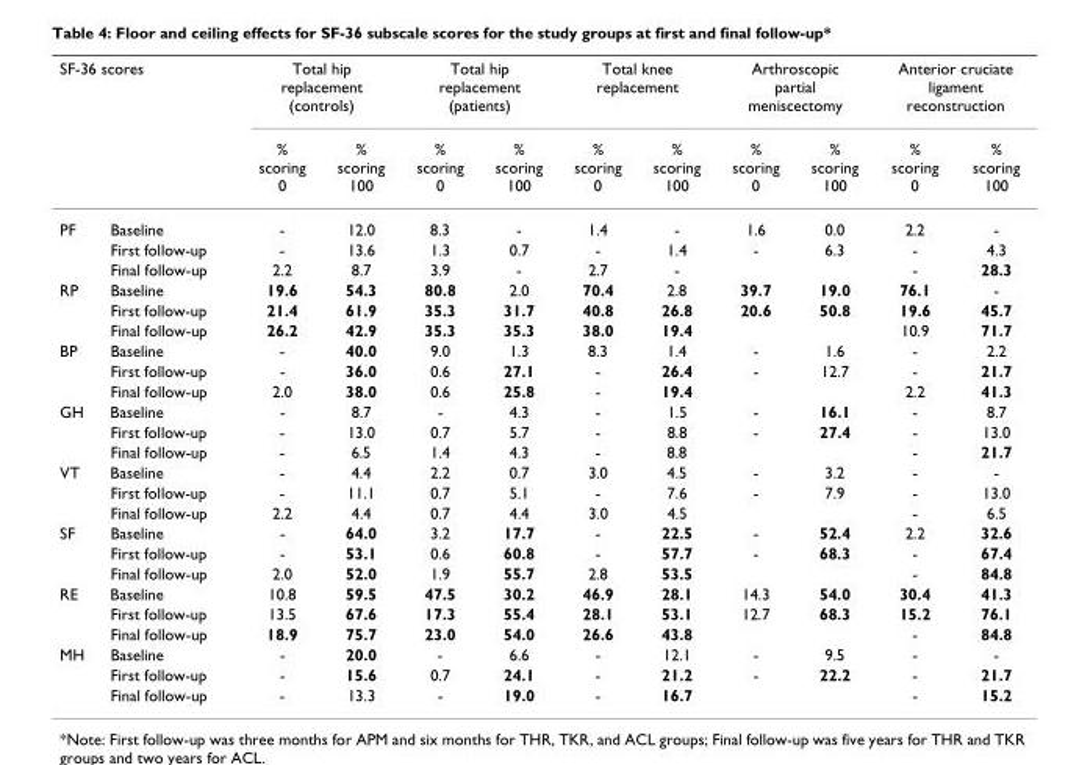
<table><thead><tr><td colspan="2">SF-36 scores</td><td colspan="2">Total hip replacement (controls)</td><td colspan="2">Total hip replacement (patients)</td><td colspan="2">Total knee replacement</td><td colspan="2">Arthroscopic partial meniscectomy</td><td colspan="2">Anterior cruciate ligament reconstruction</td></tr><tr><td></td><td></td><td>% scoring 0</td><td>% scoring 100</td><td>% scoring 0</td><td>% scoring 100</td><td>% scoring 0</td><td>% scoring 100</td><td>% scoring 0</td><td>% scoring 100</td><td>% scoring 0</td><td>% scoring 100</td></tr></thead><tbody><tr><td rowspan="3">PF</td><td>Baseline</td><td>-</td><td>12.0</td><td>8.3</td><td>-</td><td>1.4</td><td>-</td><td>1.6</td><td>0.0</td><td>2.2</td><td>-</td></tr><tr><td>First follow-up</td><td>-</td><td>13.6</td><td>1.3</td><td>0.7</td><td>-</td><td>1.4</td><td>-</td><td>6.3</td><td>-</td><td>4.3</td></tr><tr><td>Final follow-up</td><td>2.2</td><td>8.7</td><td>3.9</td><td>-</td><td>2.7</td><td>-</td><td></td><td></td><td>-</td><td>28.3</td></tr><tr><td rowspan="3">RP</td><td>Baseline</td><td>19.6</td><td>54.3</td><td>80.8</td><td>2.0</td><td>70.4</td><td>2.8</td><td>39.7</td><td>19.0</td><td>76.1</td><td>-</td></tr><tr><td>First follow-up</td><td>21.4</td><td>61.9</td><td>35.3</td><td>31.7</td><td>40.8</td><td>26.8</td><td>20.6</td><td>50.8</td><td>19.6</td><td>45.7</td></tr><tr><td>Final follow-up</td><td>26.2</td><td>42.9</td><td>35.3</td><td>35.3</td><td>38.0</td><td>19.4</td><td></td><td></td><td>10.9</td><td>71.7</td></tr><tr><td rowspan="3">BP</td><td>Baseline</td><td>-</td><td>40.0</td><td>9.0</td><td>1.3</td><td>8.3</td><td>1.4</td><td>-</td><td>1.6</td><td>-</td><td>2.2</td></tr><tr><td>First follow-up</td><td>-</td><td>36.0</td><td>0.6</td><td>27.1</td><td>-</td><td>26.4</td><td>-</td><td>12.7</td><td>-</td><td>21.7</td></tr><tr><td>Final follow-up</td><td>2.0</td><td>38.0</td><td>0.6</td><td>25.8</td><td>-</td><td>19.4</td><td></td><td></td><td>2.2</td><td>41.3</td></tr><tr><td rowspan="3">GH</td><td>Baseline</td><td>-</td><td>8.7</td><td>-</td><td>4.3</td><td>-</td><td>1.5</td><td>-</td><td>16.1</td><td>-</td><td>8.7</td></tr><tr><td>First follow-up</td><td>-</td><td>13.0</td><td>0.7</td><td>5.7</td><td>-</td><td>8.8</td><td>-</td><td>27.4</td><td>-</td><td>13.0</td></tr><tr><td>Final follow-up</td><td>-</td><td>6.5</td><td>1.4</td><td>4.3</td><td>-</td><td>8.8</td><td></td><td></td><td>-</td><td>21.7</td></tr><tr><td rowspan="3">VT</td><td>Baseline</td><td>-</td><td>4.4</td><td>2.2</td><td>0.7</td><td>3.0</td><td>4.5</td><td>-</td><td>3.2</td><td>-</td><td>-</td></tr><tr><td>First follow-up</td><td>-</td><td>11.1</td><td>0.7</td><td>5.1</td><td>-</td><td>7.6</td><td>-</td><td>7.9</td><td>-</td><td>13.0</td></tr><tr><td>Final follow-up</td><td>2.2</td><td>4.4</td><td>0.7</td><td>4.4</td><td>3.0</td><td>4.5</td><td></td><td></td><td>-</td><td>6.5</td></tr><tr><td rowspan="3">SF</td><td>Baseline</td><td>-</td><td>64.0</td><td>3.2</td><td>17.7</td><td>-</td><td>22.5</td><td>-</td><td>52.4</td><td>2.2</td><td>32.6</td></tr><tr><td>First follow-up</td><td>-</td><td>53.1</td><td>0.6</td><td>60.8</td><td>-</td><td>57.7</td><td>-</td><td>68.3</td><td>-</td><td>67.4</td></tr><tr><td>Final follow-up</td><td>2.0</td><td>52.0</td><td>1.9</td><td>55.7</td><td>2.8</td><td>53.5</td><td></td><td></td><td>-</td><td>84.8</td></tr><tr><td rowspan="3">RE</td><td>Baseline</td><td>10.8</td><td>59.5</td><td>47.5</td><td>30.2</td><td>46.9</td><td>28.1</td><td>14.3</td><td>54.0</td><td>30.4</td><td>41.3</td></tr><tr><td>First follow-up</td><td>13.5</td><td>67.6</td><td>17.3</td><td>55.4</td><td>28.1</td><td>53.1</td><td>12.7</td><td>68.3</td><td>15.2</td><td>76.1</td></tr><tr><td>Final follow-up</td><td>18.9</td><td>75.7</td><td>23.0</td><td>54.0</td><td>26.6</td><td>43.8</td><td></td><td></td><td>-</td><td>84.8</td></tr><tr><td rowspan="3">MH</td><td>Baseline</td><td>-</td><td>20.0</td><td>-</td><td>6.6</td><td>-</td><td>12.1</td><td>-</td><td>9.5</td><td>-</td><td>-</td></tr><tr><td>First follow-up</td><td>-</td><td>15.6</td><td>0.7</td><td>24.1</td><td>-</td><td>21.2</td><td>-</td><td>22.2</td><td>-</td><td>21.7</td></tr><tr><td>Final follow-up</td><td>-</td><td>13.3</td><td>-</td><td>19.0</td><td>-</td><td>16.7</td><td></td><td></td><td>-</td><td>15.2</td></tr></tbody></table>